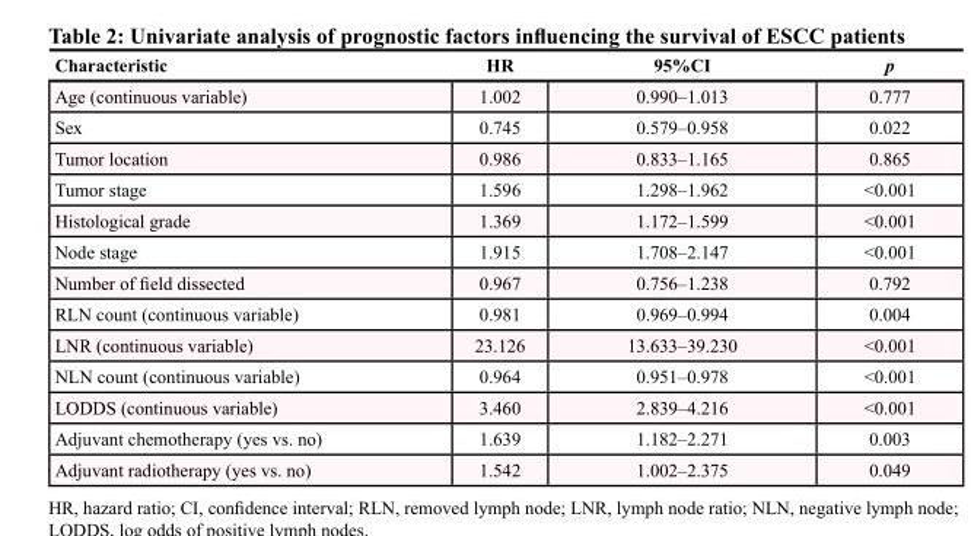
<table><thead><tr><td>Characteristic</td><td>HR</td><td>95%CI</td><td>p</td></tr></thead><tbody><tr><td>Age (continuous variable)</td><td>1.002</td><td>0.990–1.013</td><td>0.777</td></tr><tr><td>Sex</td><td>0.745</td><td>0.579–0.958</td><td>0.022</td></tr><tr><td>Tumor location</td><td>0.986</td><td>0.833–1.165</td><td>0.865</td></tr><tr><td>Tumor stage</td><td>1.596</td><td>1.298–1.962</td><td>&lt;0.001</td></tr><tr><td>Histological grade</td><td>1.369</td><td>1.172–1.599</td><td>&lt;0.001</td></tr><tr><td>Node stage</td><td>1.915</td><td>1.708–2.147</td><td>&lt;0.001</td></tr><tr><td>Number of field dissected</td><td>0.967</td><td>0.756–1.238</td><td>0.792</td></tr><tr><td>RLN count (continuous variable)</td><td>0.981</td><td>0.969–0.994</td><td>0.004</td></tr><tr><td>LNR (continuous variable)</td><td>23.126</td><td>13.633–39.230</td><td>&lt;0.001</td></tr><tr><td>NLN count (continuous variable)</td><td>0.964</td><td>0.951–0.978</td><td>&lt;0.001</td></tr><tr><td>LODDS (continuous variable)</td><td>3.460</td><td>2.839–4.216</td><td>&lt;0.001</td></tr><tr><td>Adjuvant chemotherapy (yes vs. no)</td><td>1.639</td><td>1.182–2.271</td><td>0.003</td></tr><tr><td>Adjuvant radiotherapy (yes vs. no)</td><td>1.542</td><td>1.002–2.375</td><td>0.049</td></tr></tbody></table>